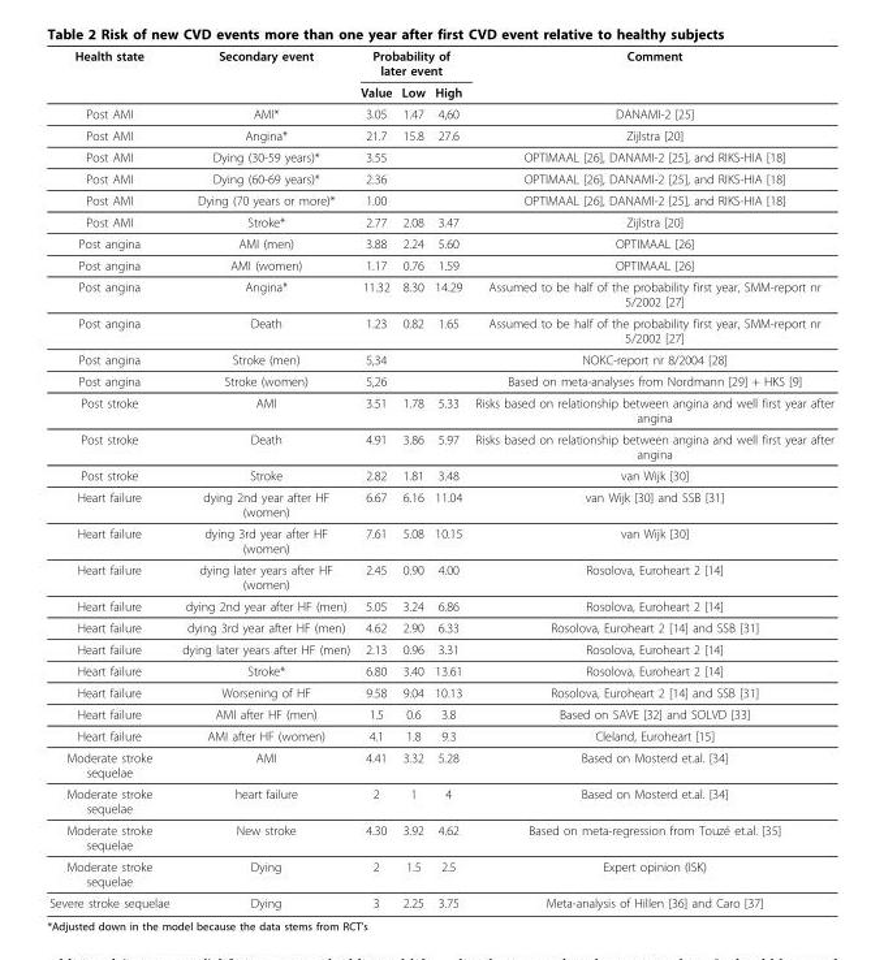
<table><thead><tr><td rowspan="2">Health state</td><td rowspan="2">Secondary event</td><td colspan="3">Probability of later event</td><td rowspan="2">Comment</td></tr><tr><td>Value</td><td>Low</td><td>High</td></tr></thead><tbody><tr><td>Post AMI</td><td>AMI*</td><td>3.05</td><td>1.47</td><td>4,60</td><td>DANAMI-2 [25]</td></tr><tr><td>Post AMI</td><td>Angina*</td><td>21.7</td><td>15.8</td><td>27.6</td><td>Zijlstra [20]</td></tr><tr><td>Post AMI</td><td>Dying (30-59 years)*</td><td>3.55</td><td></td><td></td><td>OPTIMAAL [26], DANAMI-2 [25], and RIKS-HIA [18]</td></tr><tr><td>Post AMI</td><td>Dying (60-69 years)*</td><td>2.36</td><td></td><td></td><td>OPTIMAAL [26], DANAMI-2 [25], and RIKS-HIA [18]</td></tr><tr><td>Post AMI</td><td>Dying (70 years or more)*</td><td>1.00</td><td></td><td></td><td>OPTIMAAL [26], DANAMI-2 [25], and RIKS-HIA [18]</td></tr><tr><td>Post AMI</td><td>Stroke*</td><td>2.77</td><td>2.08</td><td>3.47</td><td>Zijlstra [20]</td></tr><tr><td>Post angina</td><td>AMI (men)</td><td>3.88</td><td>2.24</td><td>5.60</td><td>OPTIMAAL [26]</td></tr><tr><td>Post angina</td><td>AMI (women)</td><td>1.17</td><td>0.76</td><td>1.59</td><td>OPTIMAAL [26]</td></tr><tr><td>Post angina</td><td>Angina*</td><td>11.32</td><td>8.30</td><td>14.29</td><td>Assumed to be half of the probability first year, SMM-report nr 5/2002 [27]</td></tr><tr><td>Post angina</td><td>Death</td><td>1.23</td><td>0.82</td><td>1.65</td><td>Assumed to be half of the probability first year, SMM-report nr 5/2002 [27]</td></tr><tr><td>Post angina</td><td>Stroke (men)</td><td>5,34</td><td></td><td></td><td>NOKC-report nr 8/2004 [28]</td></tr><tr><td>Post angina</td><td>Stroke (women)</td><td>5,26</td><td></td><td></td><td>Based on meta-analyses from Nordmann [29] + HKS [9]</td></tr><tr><td>Post stroke</td><td>AMI</td><td>3.51</td><td>1.78</td><td>5.33</td><td>Risks based on relationship between angina and well first year after angina</td></tr><tr><td>Post stroke</td><td>Death</td><td>4.91</td><td>3.86</td><td>5.97</td><td>Risks based on relationship between angina and well first year after angina</td></tr><tr><td>Post stroke</td><td>Stroke</td><td>2.82</td><td>1.81</td><td>3.48</td><td>van Wijk [30]</td></tr><tr><td>Heart failure</td><td>dying 2nd year after HF (women)</td><td>6.67</td><td>6.16</td><td>11.04</td><td>van Wijk [30] and SSB [31]</td></tr><tr><td>Heart failure</td><td>dying 3rd year after HF (women)</td><td>7.61</td><td>5.08</td><td>10.15</td><td>van Wijk [30]</td></tr><tr><td>Heart failure</td><td>dying later years after HF (women)</td><td>2.45</td><td>0.90</td><td>4.00</td><td>Rosolova, Euroheart 2 [14]</td></tr><tr><td>Heart failure</td><td>dying 2nd year after HF (men)</td><td>5.05</td><td>3.24</td><td>6.86</td><td>Rosolova, Euroheart 2 [14]</td></tr><tr><td>Heart failure</td><td>dying 3rd year after HF (men)</td><td>4.62</td><td>2.90</td><td>6.33</td><td>Rosolova, Euroheart 2 [14] and SSB [31]</td></tr><tr><td>Heart failure</td><td>dying later years after HF (men)</td><td>2.13</td><td>0.96</td><td>3.31</td><td>Rosolova, Euroheart 2 [14]</td></tr><tr><td>Heart failure</td><td>Stroke*</td><td>6.80</td><td>3.40</td><td>13.61</td><td>Rosolova, Euroheart 2 [14]</td></tr><tr><td>Heart failure</td><td>Worsening of HF</td><td>9.58</td><td>9.04</td><td>10.13</td><td>Rosolova, Euroheart 2 [14] and SSB [31]</td></tr><tr><td>Heart failure</td><td>AMI after HF (men)</td><td>1.5</td><td>0.6</td><td>3.8</td><td>Based on SAVE [32] and SOLVD [33]</td></tr><tr><td>Heart failure</td><td>AMI after HF (women)</td><td>4.1</td><td>1.8</td><td>9.3</td><td>Cleland, Euroheart [15]</td></tr><tr><td>Moderate stroke sequelae</td><td>AMI</td><td>4.41</td><td>3.32</td><td>5.28</td><td>Based on Mosterd et.al. [34]</td></tr><tr><td>Moderate stroke sequelae</td><td>heart failure</td><td>2</td><td>1</td><td>4</td><td>Based on Mosterd et.al. [34]</td></tr><tr><td>Moderate stroke sequelae</td><td>New stroke</td><td>4.30</td><td>3.92</td><td>4.62</td><td>Based on meta-regression from Touzé et.al. [35]</td></tr><tr><td>Moderate stroke sequelae</td><td>Dying</td><td>2</td><td>1.5</td><td>2.5</td><td>Expert opinion (ISK)</td></tr><tr><td>Severe stroke sequelae</td><td>Dying</td><td>3</td><td>2.25</td><td>3.75</td><td>Meta-analysis of Hillen [36] and Caro [37]</td></tr></tbody></table>